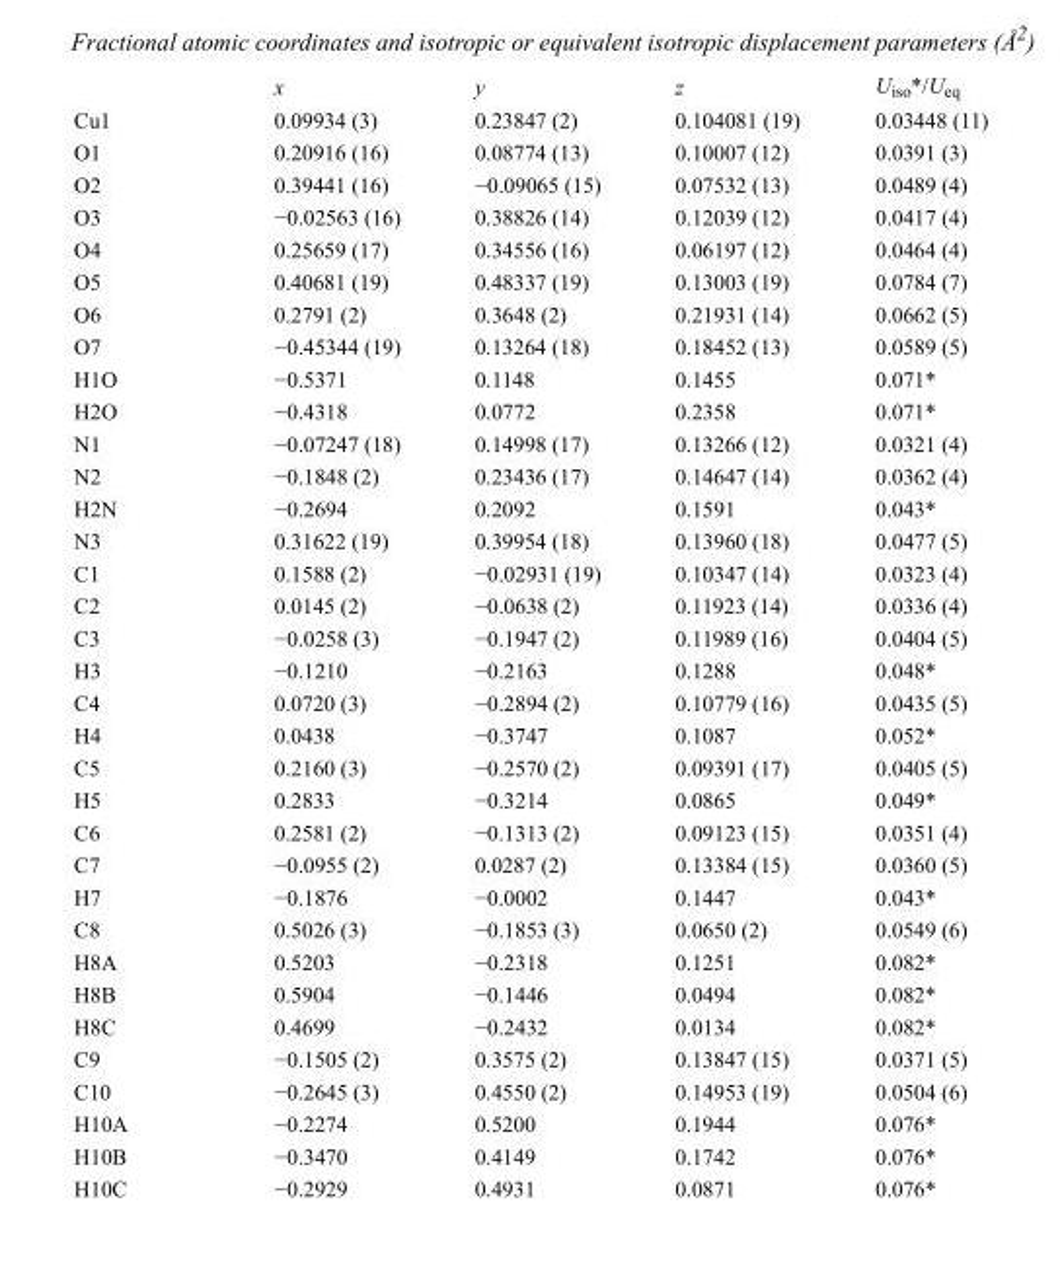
<table><thead><tr><td></td><td>x</td><td>y</td><td>z</td><td>U<sub>iso</sub>*/U<sub>eq</sub></td></tr></thead><tbody><tr><td>Cu1</td><td>0.09934 (3)</td><td>0.23847 (2)</td><td>0.104081 (19)</td><td>0.03448 (11)</td></tr><tr><td>O1</td><td>0.20916 (16)</td><td>0.08774 (13)</td><td>0.10007 (12)</td><td>0.0391 (3)</td></tr><tr><td>O2</td><td>0.39441 (16)</td><td>−0.09065 (15)</td><td>0.07532 (13)</td><td>0.0489 (4)</td></tr><tr><td>O3</td><td>−0.02563 (16)</td><td>0.38826 (14)</td><td>0.12039 (12)</td><td>0.0417 (4)</td></tr><tr><td>O4</td><td>0.25659 (17)</td><td>0.34556 (16)</td><td>0.06197 (12)</td><td>0.0464 (4)</td></tr><tr><td>O5</td><td>0.40681 (19)</td><td>0.48337 (19)</td><td>0.13003 (19)</td><td>0.0784 (7)</td></tr><tr><td>O6</td><td>0.2791 (2)</td><td>0.3648 (2)</td><td>0.21931 (14)</td><td>0.0662 (5)</td></tr><tr><td>O7</td><td>−0.45344 (19)</td><td>0.13264 (18)</td><td>0.18452 (13)</td><td>0.0589 (5)</td></tr><tr><td>H1O</td><td>−0.5371</td><td>0.1148</td><td>0.1455</td><td>0.071*</td></tr><tr><td>H2O</td><td>−0.4318</td><td>0.0772</td><td>0.2358</td><td>0.071*</td></tr><tr><td>N1</td><td>−0.07247 (18)</td><td>0.14998 (17)</td><td>0.13266 (12)</td><td>0.0321 (4)</td></tr><tr><td>N2</td><td>−0.1848 (2)</td><td>0.23436 (17)</td><td>0.14647 (14)</td><td>0.0362 (4)</td></tr><tr><td>H2N</td><td>−0.2694</td><td>0.2092</td><td>0.1591</td><td>0.043*</td></tr><tr><td>N3</td><td>0.31622 (19)</td><td>0.39954 (18)</td><td>0.13960 (18)</td><td>0.0477 (5)</td></tr><tr><td>C1</td><td>0.1588 (2)</td><td>−0.02931 (19)</td><td>0.10347 (14)</td><td>0.0323 (4)</td></tr><tr><td>C2</td><td>0.0145 (2)</td><td>−0.0638 (2)</td><td>0.11923 (14)</td><td>0.0336 (4)</td></tr><tr><td>C3</td><td>−0.0258 (3)</td><td>−0.1947 (2)</td><td>0.11989 (16)</td><td>0.0404 (5)</td></tr><tr><td>H3</td><td>−0.1210</td><td>−0.2163</td><td>0.1288</td><td>0.048*</td></tr><tr><td>C4</td><td>0.0720 (3)</td><td>−0.2894 (2)</td><td>0.10779 (16)</td><td>0.0435 (5)</td></tr><tr><td>H4</td><td>0.0438</td><td>−0.3747</td><td>0.1087</td><td>0.052*</td></tr><tr><td>C5</td><td>0.2160 (3)</td><td>−0.2570 (2)</td><td>0.09391 (17)</td><td>0.0405 (5)</td></tr><tr><td>H5</td><td>0.2833</td><td>−0.3214</td><td>0.0865</td><td>0.049*</td></tr><tr><td>C6</td><td>0.2581 (2)</td><td>−0.1313 (2)</td><td>0.09123 (15)</td><td>0.0351 (4)</td></tr><tr><td>C7</td><td>−0.0955 (2)</td><td>0.0287 (2)</td><td>0.13384 (15)</td><td>0.0360 (5)</td></tr><tr><td>H7</td><td>−0.1876</td><td>−0.0002</td><td>0.1447</td><td>0.043*</td></tr><tr><td>C8</td><td>0.5026 (3)</td><td>−0.1853 (3)</td><td>0.0650 (2)</td><td>0.0549 (6)</td></tr><tr><td>H8A</td><td>0.5203</td><td>−0.2318</td><td>0.1251</td><td>0.082*</td></tr><tr><td>H8B</td><td>0.5904</td><td>−0.1446</td><td>0.0494</td><td>0.082*</td></tr><tr><td>H8C</td><td>0.4699</td><td>−0.2432</td><td>0.0134</td><td>0.082*</td></tr><tr><td>C9</td><td>−0.1505 (2)</td><td>0.3575 (2)</td><td>0.13847 (15)</td><td>0.0371 (5)</td></tr><tr><td>C10</td><td>−0.2645 (3)</td><td>0.4550 (2)</td><td>0.14953 (19)</td><td>0.0504 (6)</td></tr><tr><td>H10A</td><td>−0.2274</td><td>0.5200</td><td>0.1944</td><td>0.076*</td></tr><tr><td>H10B</td><td>−0.3470</td><td>0.4149</td><td>0.1742</td><td>0.076*</td></tr><tr><td>H10C</td><td>−0.2929</td><td>0.4931</td><td>0.0871</td><td>0.076*</td></tr></tbody></table>